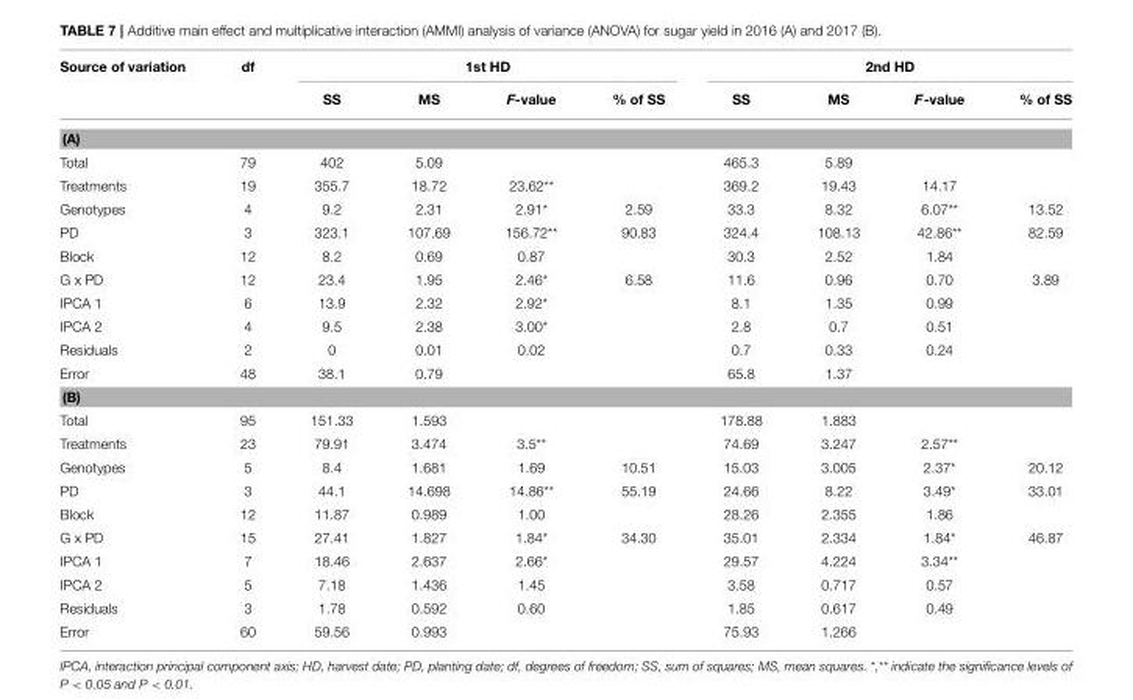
<table><thead><tr><td rowspan="2">Source of variation</td><td rowspan="2">df</td><td colspan="4">1st HD</td><td colspan="4">2nd HD</td></tr><tr><td>SS</td><td>MS</td><td>F-value</td><td>% of SS</td><td>SS</td><td>MS</td><td>F-value</td><td>% of SS</td></tr></thead><tbody><tr><td colspan="10">(A)</td></tr><tr><td>Total</td><td>79</td><td>402</td><td>5.09</td><td></td><td></td><td>465.3</td><td>5.89</td><td></td><td></td></tr><tr><td>Treatments</td><td>19</td><td>355.7</td><td>18.72</td><td>23.62**</td><td></td><td>369.2</td><td>19.43</td><td>14.17</td><td></td></tr><tr><td>Genotypes</td><td>4</td><td>9.2</td><td>2.31</td><td>2.91*</td><td>2.59</td><td>33.3</td><td>8.32</td><td>6.07**</td><td>13.52</td></tr><tr><td>PD</td><td>3</td><td>323.1</td><td>107.69</td><td>156.72**</td><td>90.83</td><td>324.4</td><td>108.13</td><td>42.86**</td><td>82.59</td></tr><tr><td>Block</td><td>12</td><td>8.2</td><td>0.69</td><td>0.87</td><td></td><td>30.3</td><td>2.52</td><td>1.84</td><td></td></tr><tr><td>G x PD</td><td>12</td><td>23.4</td><td>1.95</td><td>2.46*</td><td>6.58</td><td>11.6</td><td>0.96</td><td>0.70</td><td>3.89</td></tr><tr><td>IPCA 1</td><td>6</td><td>13.9</td><td>2.32</td><td>2.92*</td><td></td><td>8.1</td><td>1.35</td><td>0.99</td><td></td></tr><tr><td>IPCA 2</td><td>4</td><td>9.5</td><td>2.38</td><td>3.00*</td><td></td><td>2.8</td><td>0.7</td><td>0.51</td><td></td></tr><tr><td>Residuals</td><td>2</td><td>0</td><td>0.01</td><td>0.02</td><td></td><td>0.7</td><td>0.33</td><td>0.24</td><td></td></tr><tr><td>Error</td><td>48</td><td>38.1</td><td>0.79</td><td></td><td></td><td>65.8</td><td>1.37</td><td></td><td></td></tr><tr><td colspan="10">(B)</td></tr><tr><td>Total</td><td>95</td><td>151.33</td><td>1.593</td><td></td><td></td><td>178.88</td><td>1.883</td><td></td><td></td></tr><tr><td>Treatments</td><td>23</td><td>79.91</td><td>3.474</td><td>3.5**</td><td></td><td>74.69</td><td>3.247</td><td>2.57**</td><td></td></tr><tr><td>Genotypes</td><td>5</td><td>8.4</td><td>1.681</td><td>1.69</td><td>10.51</td><td>15.03</td><td>3.005</td><td>2.37*</td><td>20.12</td></tr><tr><td>PD</td><td>3</td><td>44.1</td><td>14.698</td><td>14.86**</td><td>55.19</td><td>24.66</td><td>8.22</td><td>3.49*</td><td>33.01</td></tr><tr><td>Block</td><td>12</td><td>11.87</td><td>0.989</td><td>1.00</td><td></td><td>28.26</td><td>2.355</td><td>1.86</td><td></td></tr><tr><td>G x PD</td><td>15</td><td>27.41</td><td>1.827</td><td>1.84*</td><td>34.30</td><td>35.01</td><td>2.334</td><td>1.84*</td><td>46.87</td></tr><tr><td>IPCA 1</td><td>7</td><td>18.46</td><td>2.637</td><td>2.66*</td><td></td><td>29.57</td><td>4.224</td><td>3.34**</td><td></td></tr><tr><td>IPCA 2</td><td>5</td><td>7.18</td><td>1.436</td><td>1.45</td><td></td><td>3.58</td><td>0.717</td><td>0.57</td><td></td></tr><tr><td>Residuals</td><td>3</td><td>1.78</td><td>0.592</td><td>0.60</td><td></td><td>1.85</td><td>0.617</td><td>0.49</td><td></td></tr><tr><td>Error</td><td>60</td><td>59.56</td><td>0.993</td><td></td><td></td><td>75.93</td><td>1.266</td><td></td><td></td></tr></tbody></table>